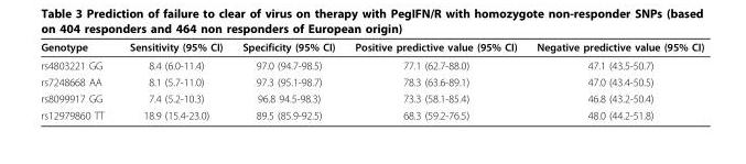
<table><thead><tr><td>Genotype</td><td>Sensitivity (95% CI)</td><td>Specificity (95% CI)</td><td>Positive predictive value (95% CI)</td><td>Negative predictive value (95% CI)</td></tr></thead><tbody><tr><td>rs4803221 GG</td><td>8.4 (6.0-11.4)</td><td>97.0 (94.7-98.5)</td><td>77.1 (62.7-88.0)</td><td>47.1 (43.5-50.7)</td></tr><tr><td>rs7248668 AA</td><td>8.1 (5.7-11.0)</td><td>97.3 (95.1-98.7)</td><td>78.3 (63.6-89.1)</td><td>47.0 (43.4-50.5)</td></tr><tr><td>rs8099917 GG</td><td>7.4 (5.2-10.3)</td><td>96.8 94.5-98.3)</td><td>73.3 (58.1-85.4)</td><td>46.8 (43.2-50.4)</td></tr><tr><td>rs12979860 TT</td><td>18.9 (15.4-23.0)</td><td>89.5 (85.9-92.5)</td><td>68.3 (59.2-76.5)</td><td>48.0 (44.2-51.8)</td></tr></tbody></table>